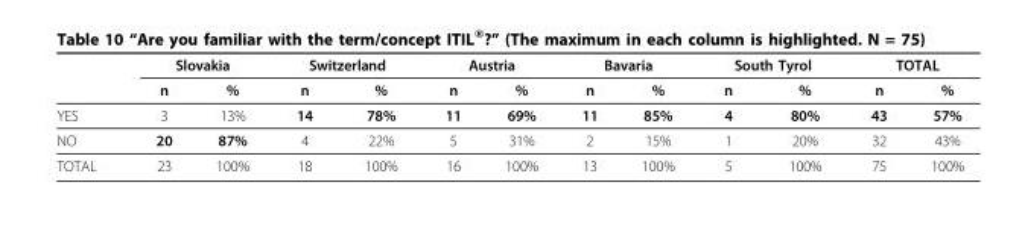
<table><thead><tr><td rowspan="2"></td><td colspan="2">Slovakia</td><td colspan="2">Switzerland</td><td colspan="2">Austria</td><td colspan="2">Bavaria</td><td colspan="2">South Tyrol</td><td colspan="2">TOTAL</td></tr><tr><td>n</td><td>%</td><td>n</td><td>%</td><td>n</td><td>%</td><td>n</td><td>%</td><td>n</td><td>%</td><td>n</td><td>%</td></tr></thead><tbody><tr><td>YES</td><td>3</td><td>13%</td><td>14</td><td>78%</td><td>11</td><td>69%</td><td>11</td><td>85%</td><td>4</td><td>80%</td><td>43</td><td>57%</td></tr><tr><td>NO</td><td>20</td><td>87%</td><td>4</td><td>22%</td><td>5</td><td>31%</td><td>2</td><td>15%</td><td>1</td><td>20%</td><td>32</td><td>43%</td></tr><tr><td>TOTAL</td><td>23</td><td>100%</td><td>18</td><td>100%</td><td>16</td><td>100%</td><td>13</td><td>100%</td><td>5</td><td>100%</td><td>75</td><td>100%</td></tr></tbody></table>